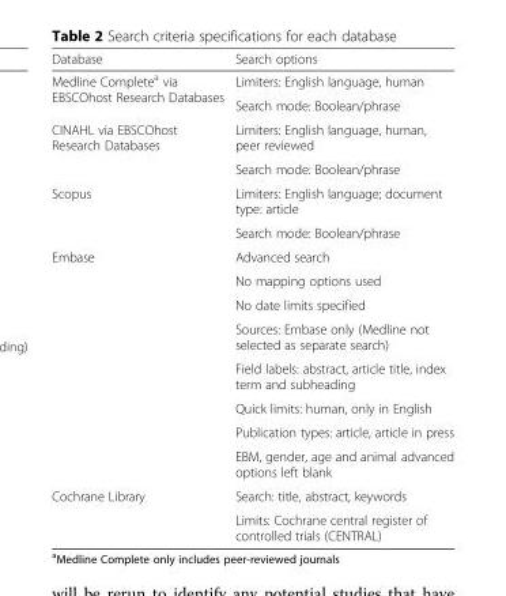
<table><thead><tr><td>Database</td><td>Search options</td></tr></thead><tbody><tr><td rowspan="2">Medline Complete<sup>a</sup> via EBSCOhost Research Databases</td><td>Limiters: English language, human</td></tr><tr><td>Search mode: Boolean/phrase</td></tr><tr><td rowspan="2">CINAHL via EBSCOhost Research Databases</td><td>Limiters: English language, human, peer reviewed</td></tr><tr><td>Search mode: Boolean/phrase</td></tr><tr><td rowspan="2">Scopus</td><td>Limiters: English language; document type: article</td></tr><tr><td>Search mode: Boolean/phrase</td></tr><tr><td rowspan="8">Embase</td><td>Advanced search</td></tr><tr><td>No mapping options used</td></tr><tr><td>No date limits specified</td></tr><tr><td>Sources: Embase only (Medline not selected as separate search)</td></tr><tr><td>Field labels: abstract, article title, index term and subheading</td></tr><tr><td>Quick limits: human, only in English</td></tr><tr><td>Publication types: article, article in press</td></tr><tr><td>EBM, gender, age and animal advanced options left blank</td></tr><tr><td rowspan="2">Cochrane Library</td><td>Search: title, abstract, keywords</td></tr><tr><td>Limits: Cochrane central register of controlled trials (CENTRAL)</td></tr></tbody></table>